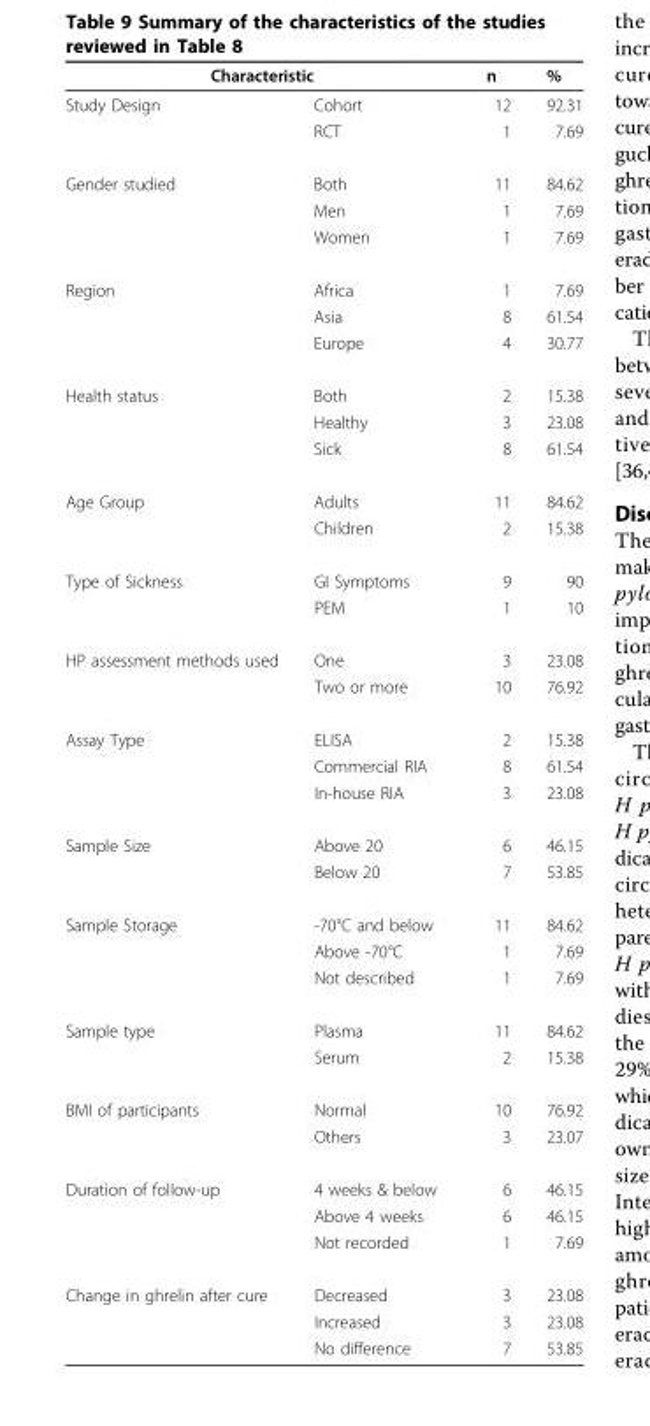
<table><thead><tr><td colspan="2">Characteristic</td><td rowspan="2">n 12</td><td rowspan="2">% 92.31</td></tr><tr><td>Study Design</td><td>Cohort</td></tr></thead><tbody><tr><td></td><td>RCT</td><td>1</td><td>7.69</td></tr><tr><td rowspan="3">Gender studied</td><td>Both</td><td>11</td><td>84.62</td></tr><tr><td>Men</td><td>1</td><td>7.69</td></tr><tr><td>Women</td><td>1</td><td>7.69</td></tr><tr><td rowspan="3">Region</td><td>Africa</td><td>1</td><td>7.69</td></tr><tr><td>Asia</td><td>8</td><td>61.54</td></tr><tr><td>Europe</td><td>4</td><td>30.77</td></tr><tr><td rowspan="3">Health status</td><td>Both</td><td>2</td><td>15.38</td></tr><tr><td>Healthy</td><td>3</td><td>23.08</td></tr><tr><td>Sick</td><td>8</td><td>61.54</td></tr><tr><td rowspan="2">Age Group</td><td>Adults</td><td>11</td><td>84.62</td></tr><tr><td>Children</td><td>2</td><td>15.38</td></tr><tr><td rowspan="2">Type of Sickness</td><td>GI Symptoms</td><td>9</td><td>90</td></tr><tr><td>PEM</td><td>1</td><td>10</td></tr><tr><td rowspan="2">HP assessment methods used</td><td>One</td><td>3</td><td>23.08</td></tr><tr><td>Two or more</td><td>10</td><td>76.92</td></tr><tr><td rowspan="3">Assay Type</td><td>ELISA</td><td>2</td><td>15.38</td></tr><tr><td>Commercial RIA</td><td>8</td><td>61.54</td></tr><tr><td>In-house RIA</td><td>3</td><td>23.08</td></tr><tr><td rowspan="2">Sample Size</td><td>Above 20</td><td>6</td><td>46.15</td></tr><tr><td>Below 20</td><td>7</td><td>53.85</td></tr><tr><td rowspan="3">Sample Storage</td><td>-70°C and below</td><td>11</td><td>84.62</td></tr><tr><td>Above -70°C</td><td>1</td><td>7.69</td></tr><tr><td>Not described</td><td>1</td><td>7.69</td></tr><tr><td rowspan="2">Sample type</td><td>Plasma</td><td>11</td><td>84.62</td></tr><tr><td>Serum</td><td>2</td><td>15.38</td></tr><tr><td rowspan="2">BMI of participants</td><td>Normal</td><td>10</td><td>76.92</td></tr><tr><td>Others</td><td>3</td><td>23.07</td></tr><tr><td rowspan="3">Duration of follow-up</td><td>4 weeks &amp; below</td><td>6</td><td>46.15</td></tr><tr><td>Above 4 weeks</td><td>6</td><td>46.15</td></tr><tr><td>Not recorded</td><td>1</td><td>7.69</td></tr><tr><td rowspan="3">Change in ghrelin after cure</td><td>Decreased</td><td>3</td><td>23.08</td></tr><tr><td>Increased</td><td>3</td><td>23.08</td></tr><tr><td>No difference</td><td>7</td><td>53.85</td></tr></tbody></table>